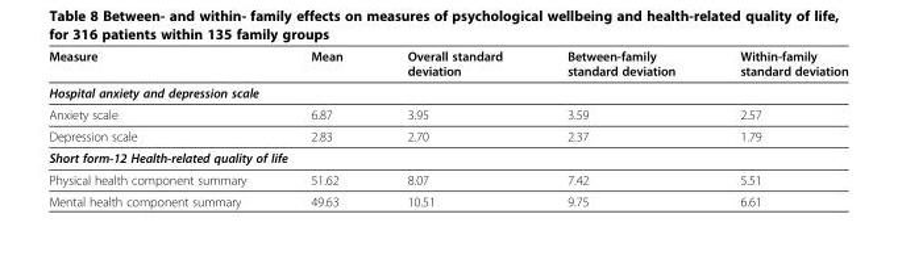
<table><thead><tr><td>Measure</td><td>Mean</td><td>Overall standard deviation</td><td>Between-family standard deviation</td><td>Within-family standard deviation</td></tr></thead><tbody><tr><td colspan="5">Hospital anxiety and depression scale</td></tr><tr><td>Anxiety scale</td><td>6.87</td><td>3.95</td><td>3.59</td><td>2.57</td></tr><tr><td>Depression scale</td><td>2.83</td><td>2.70</td><td>2.37</td><td>1.79</td></tr><tr><td colspan="5">Short form-12 Health-related quality of life</td></tr><tr><td>Physical health component summary</td><td>51.62</td><td>8.07</td><td>7.42</td><td>5.51</td></tr><tr><td>Mental health component summary</td><td>49.63</td><td>10.51</td><td>9.75</td><td>6.61</td></tr></tbody></table>